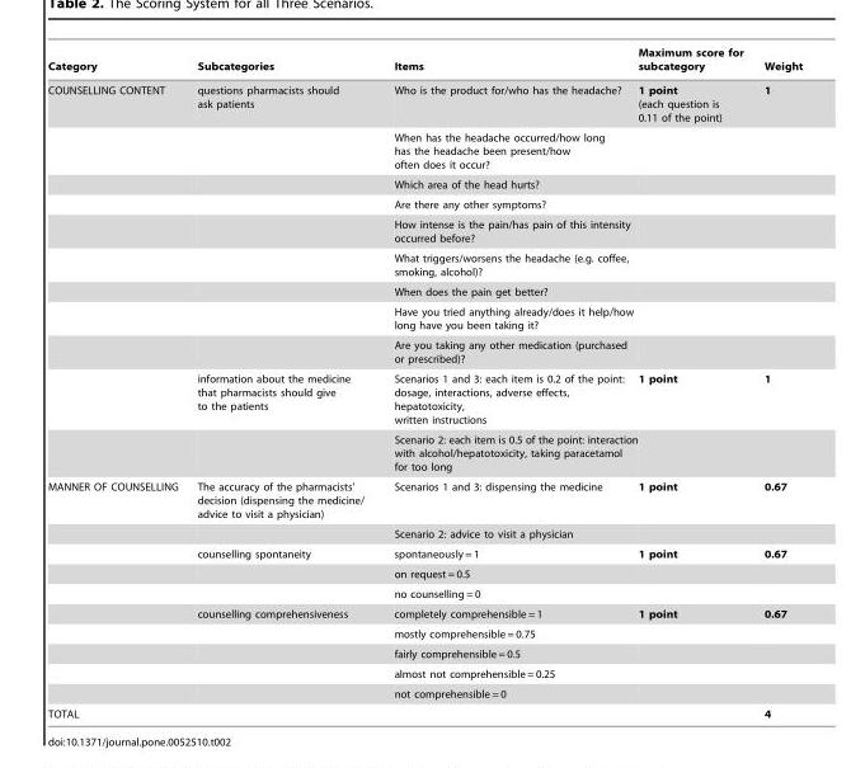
<table><thead><tr><td>Category</td><td>Subcategories</td><td>Items</td><td>Maximum score for subcategory</td><td>Weight</td></tr></thead><tbody><tr><td rowspan="11">COUNSELLING CONTENT</td><td>questions pharmacists should ask patients</td><td>Who is the product for/who has the headache?</td><td>1 point (each question is 0.11 of the point)</td><td>1</td></tr><tr><td></td><td>When has the headache occurred/how long has the headache been present/how often does it occur?</td><td></td><td></td></tr><tr><td></td><td>Which area of the head hurts?</td><td></td><td></td></tr><tr><td></td><td>Are there any other symptoms?</td><td></td><td></td></tr><tr><td></td><td>How intense is the pain/has pain of this intensity occurred before?</td><td></td><td></td></tr><tr><td></td><td>What triggers/worsens the headache (e.g. coffee, smoking, alcohol)?</td><td></td><td></td></tr><tr><td></td><td>When does the pain get better?</td><td></td><td></td></tr><tr><td></td><td>Have you tried anything already/does it help/how long have you been taking it?</td><td></td><td></td></tr><tr><td></td><td>Are you taking any other medication (purchased or prescribed)?</td><td></td><td></td></tr><tr><td>information about the medicine that pharmacists should give to the patients</td><td>Scenarios 1 and 3: each item is 0.2 of the point: dosage, interactions, adverse effects, hepatotoxicity, written instructions</td><td>1 point</td><td>1</td></tr><tr><td></td><td>Scenario 2: each item is 0.5 of the point: interaction with alcohol/hepatotoxicity, taking paracetamol for too long</td><td></td><td></td></tr><tr><td rowspan="10">MANNER OF COUNSELLING</td><td>The accuracy of the pharmacists’ decision (dispensing the medicine/ advice to visit a physician)</td><td>Scenarios 1 and 3: dispensing the medicine</td><td>1 point</td><td>0.67</td></tr><tr><td></td><td>Scenario 2: advice to visit a physician</td><td></td><td></td></tr><tr><td>counselling spontaneity</td><td>spontaneously = 1</td><td>1 point</td><td>0.67</td></tr><tr><td></td><td>on request = 0.5</td><td></td><td></td></tr><tr><td></td><td>no counselling = 0</td><td></td><td></td></tr><tr><td>counselling comprehensiveness</td><td>completely comprehensible = 1</td><td>1 point</td><td>0.67</td></tr><tr><td></td><td>mostly comprehensible = 0.75</td><td></td><td></td></tr><tr><td></td><td>fairly comprehensible = 0.5</td><td></td><td></td></tr><tr><td></td><td>almost not comprehensible = 0.25</td><td></td><td></td></tr><tr><td></td><td>not comprehensible = 0</td><td></td><td></td></tr><tr><td>TOTAL</td><td></td><td></td><td></td><td>4</td></tr></tbody></table>